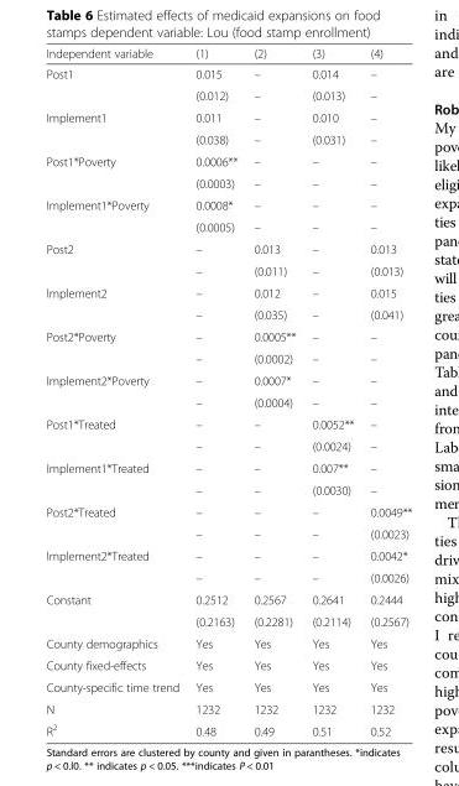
<table><thead><tr><td>Independent variable</td><td>(1)</td><td>(2)</td><td>(3)</td><td>(4)</td></tr></thead><tbody><tr><td rowspan="2">Post1</td><td>0.015</td><td>–</td><td>0.014</td><td>–</td></tr><tr><td>(0.012)</td><td>–</td><td>(0.013)</td><td>–</td></tr><tr><td rowspan="2">Implement1</td><td>0.011</td><td>–</td><td>0.010</td><td>–</td></tr><tr><td>(0.038)</td><td>–</td><td>(0.031)</td><td>–</td></tr><tr><td rowspan="2">Post1*Poverty</td><td>0.0006**</td><td>–</td><td>–</td><td>–</td></tr><tr><td>(0.0003)</td><td>–</td><td>–</td><td>–</td></tr><tr><td rowspan="2">Implement1*Poverty</td><td>0.0008*</td><td>–</td><td>–</td><td>–</td></tr><tr><td>(0.0005)</td><td>–</td><td>–</td><td>–</td></tr><tr><td rowspan="2">Post2</td><td>–</td><td>0.013</td><td>–</td><td>0.013</td></tr><tr><td>–</td><td>(0.011)</td><td>–</td><td>(0.013)</td></tr><tr><td rowspan="2">lmplement2</td><td>–</td><td>0.012</td><td>–</td><td>0.015</td></tr><tr><td>–</td><td>(0.035)</td><td>–</td><td>(0.041)</td></tr><tr><td rowspan="2">Post2*Poverty</td><td>–</td><td>0.0005**</td><td>–</td><td>–</td></tr><tr><td>–</td><td>(0.0002)</td><td>–</td><td>–</td></tr><tr><td rowspan="2">lmplement2*Poverty</td><td>–</td><td>0.0007*</td><td>–</td><td>–</td></tr><tr><td>–</td><td>(0.0004)</td><td>–</td><td>–</td></tr><tr><td rowspan="2">Post1*Treated</td><td>–</td><td>–</td><td>0.0052**</td><td>–</td></tr><tr><td>–</td><td>–</td><td>(0.0024)</td><td>–</td></tr><tr><td rowspan="2">Implement1*Treated</td><td>–</td><td>–</td><td>0.007**</td><td>–</td></tr><tr><td>–</td><td>–</td><td>(0.0030)</td><td>–</td></tr><tr><td rowspan="2">Post2*Treated</td><td>–</td><td>–</td><td>–</td><td>0.0049**</td></tr><tr><td>–</td><td>–</td><td>–</td><td>(0.0023)</td></tr><tr><td rowspan="2">lmplement2*Treated</td><td>–</td><td>–</td><td>–</td><td>0.0042*</td></tr><tr><td>–</td><td>–</td><td>–</td><td>(0.0026)</td></tr><tr><td rowspan="2">Constant</td><td>0.2512</td><td>0.2567</td><td>0.2641</td><td>0.2444</td></tr><tr><td>(0.2163)</td><td>(0.2281)</td><td>(0.2114)</td><td>(0.2567)</td></tr><tr><td>County demographics</td><td>Yes</td><td>Yes</td><td>Yes</td><td>Yes</td></tr><tr><td>County fixed-effects</td><td>Yes</td><td>Yes</td><td>Yes</td><td>Yes</td></tr><tr><td>County-specific time trend</td><td>Yes</td><td>Yes</td><td>Yes</td><td>Yes</td></tr><tr><td>N</td><td>1232</td><td>1232</td><td>1232</td><td>1232</td></tr><tr><td>R<sup>2</sup></td><td>0.48</td><td>0.49</td><td>0.51</td><td>0.52</td></tr></tbody></table>